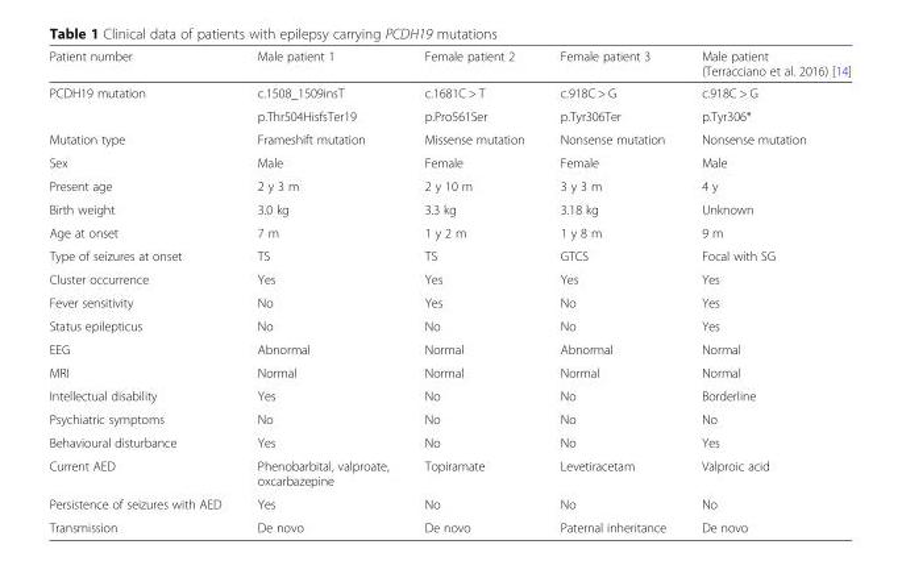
<table><thead><tr><td>Patient number</td><td>Male patient 1</td><td>Female patient 2</td><td>Female patient 3</td><td>Male patient (Terracciano et al. 2016) [14]</td></tr></thead><tbody><tr><td rowspan="2">PCDH19 mutation</td><td>c.1508_1509insT</td><td>c.1681C &gt; T</td><td>c.918C &gt; G</td><td>c.918C &gt; G</td></tr><tr><td>p.Thr504HisfsTer19</td><td>p.Pro561Ser</td><td>p.Tyr306Ter</td><td>p.Tyr306*</td></tr><tr><td>Mutation type</td><td>Frameshift mutation</td><td>Missense mutation</td><td>Nonsense mutation</td><td>Nonsense mutation</td></tr><tr><td>Sex</td><td>Male</td><td>Female</td><td>Female</td><td>Male</td></tr><tr><td>Present age</td><td>2 y 3 m</td><td>2 y 10 m</td><td>3 y 3 m</td><td>4 y</td></tr><tr><td>Birth weight</td><td>3.0 kg</td><td>3.3 kg</td><td>3.18 kg</td><td>Unknown</td></tr><tr><td>Age at onset</td><td>7 m</td><td>1 y 2 m</td><td>1 y 8 m</td><td>9 m</td></tr><tr><td>Type of seizures at onset</td><td>TS</td><td>TS</td><td>GTCS</td><td>Focal with SG</td></tr><tr><td>Cluster occurrence</td><td>Yes</td><td>Yes</td><td>Yes</td><td>Yes</td></tr><tr><td>Fever sensitivity</td><td>No</td><td>Yes</td><td>No</td><td>Yes</td></tr><tr><td>Status epilepticus</td><td>No</td><td>No</td><td>No</td><td>Yes</td></tr><tr><td>EEG</td><td>Abnormal</td><td>Normal</td><td>Abnormal</td><td>Normal</td></tr><tr><td>MRI</td><td>Normal</td><td>Normal</td><td>Normal</td><td>Normal</td></tr><tr><td>Intellectual disability</td><td>Yes</td><td>No</td><td>No</td><td>Borderline</td></tr><tr><td>Psychiatric symptoms</td><td>No</td><td>No</td><td>No</td><td>No</td></tr><tr><td>Behavioural disturbance</td><td>Yes</td><td>No</td><td>No</td><td>Yes</td></tr><tr><td>Current AED</td><td>Phenobarbital, valproate, oxcarbazepine</td><td>Topiramate</td><td>Levetiracetam</td><td>Valproic acid</td></tr><tr><td>Persistence of seizures with AED</td><td>Yes</td><td>No</td><td>No</td><td>No</td></tr><tr><td>Transmission</td><td>De novo</td><td>De novo</td><td>Paternal inheritance</td><td>De novo</td></tr></tbody></table>